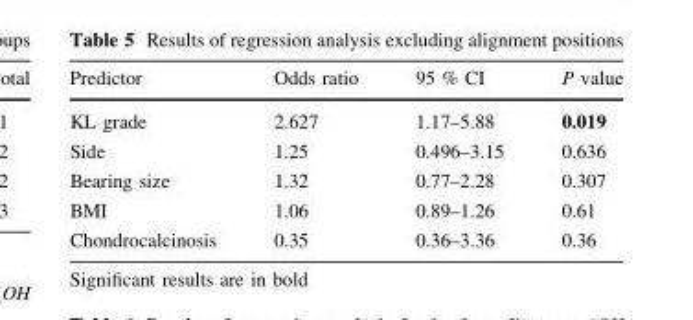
<table><thead><tr><td>Predictor</td><td>Odds ratio</td><td>95 % CI</td><td>P value</td></tr></thead><tbody><tr><td>KL grade</td><td>2.627</td><td>1.17–5.88</td><td>0.019</td></tr><tr><td>Side</td><td>1.25</td><td>0.496–3.15</td><td>0.636</td></tr><tr><td>Bearing size</td><td>1.32</td><td>0.77–2.28</td><td>0.307</td></tr><tr><td>BMI</td><td>1.06</td><td>0.89–1.26</td><td>0.61</td></tr><tr><td>Chondrocalcinosis</td><td>0.35</td><td>0.36–3.36</td><td>0.36</td></tr></tbody></table>